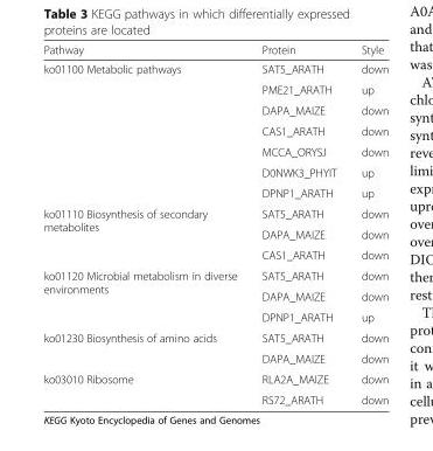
<table><thead><tr><td>Pathway</td><td>Protein</td><td>Style</td></tr></thead><tbody><tr><td rowspan="7">ko01100 Metabolic pathways</td><td>SAT5_ARATH</td><td>down</td></tr><tr><td>PME21_ARATH</td><td>up</td></tr><tr><td>DAPA_MAIZE</td><td>down</td></tr><tr><td>CAS1_ARATH</td><td>down</td></tr><tr><td>MCCA_ORYSJ</td><td>down</td></tr><tr><td>D0NWK3_PHYIT</td><td>up</td></tr><tr><td>DPNP1_ARATH</td><td>up</td></tr><tr><td rowspan="3">ko01110 Biosynthesis of secondary metabolites</td><td>SAT5_ARATH</td><td>down</td></tr><tr><td>DAPA_MAIZE</td><td>down</td></tr><tr><td>CAS1_ARATH</td><td>down</td></tr><tr><td rowspan="3">ko01120 Microbial metabolism in diverse environments</td><td>SAT5_ARATH</td><td>down</td></tr><tr><td>DAPA_MAIZE</td><td>down</td></tr><tr><td>DPNP1_ARATH</td><td>up</td></tr><tr><td rowspan="2">ko01230 Biosynthesis of amino acids</td><td>SAT5_ARATH</td><td>down</td></tr><tr><td>DAPA_MAIZE</td><td>down</td></tr><tr><td rowspan="2">ko03010 Ribosome</td><td>RLA2A_MAIZE</td><td>down</td></tr><tr><td>RS72_ARATH</td><td>down</td></tr></tbody></table>